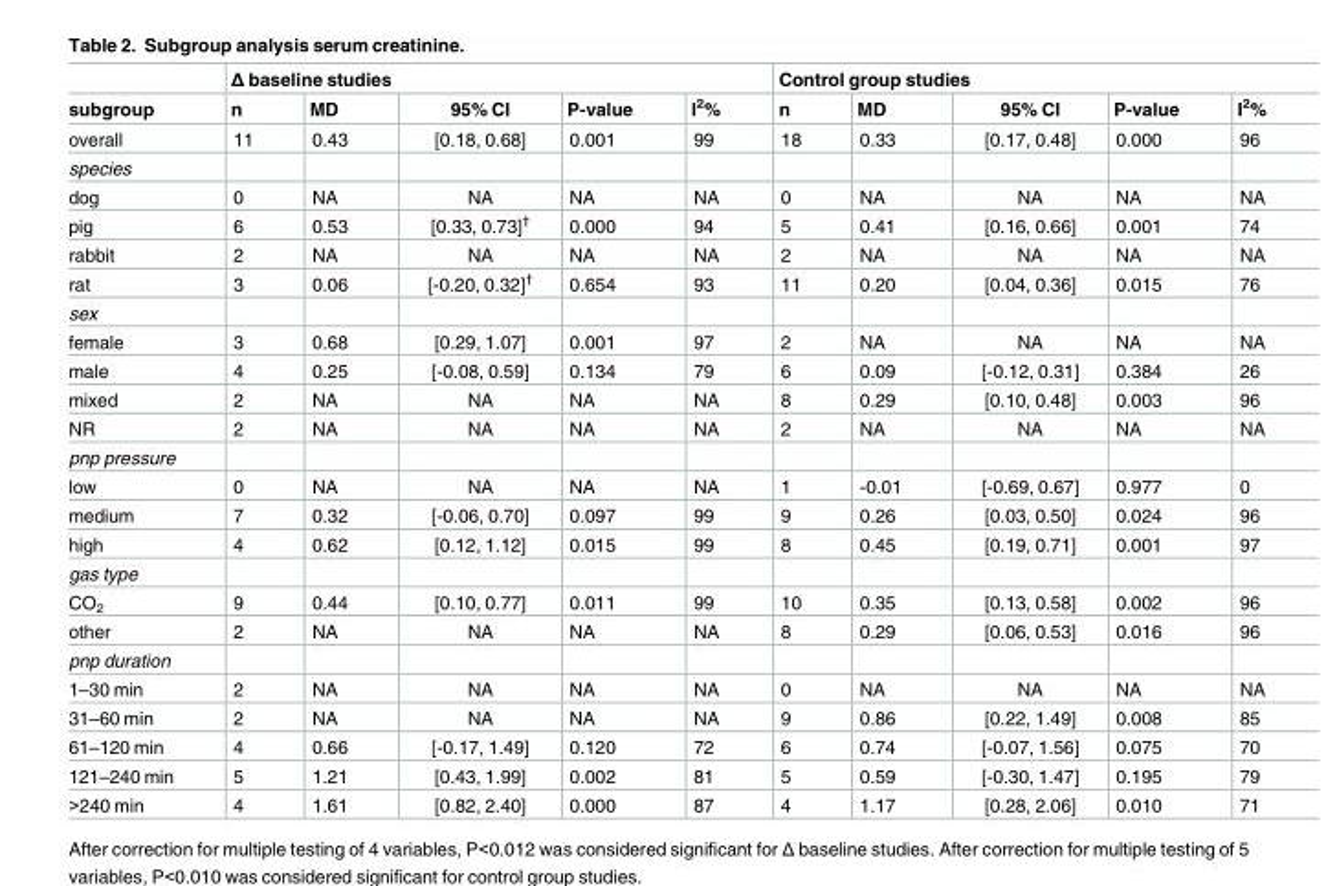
<table><thead><tr><td rowspan="2">subgroup</td><td colspan="5">Δ baseline studies</td><td colspan="5">Control group studies</td></tr><tr><td>n</td><td>MD</td><td>95% CI</td><td>P-value</td><td>I<sup>2</sup>%</td><td>n</td><td>MD</td><td>95% CI</td><td>P-value</td><td>I<sup>2</sup>%</td></tr></thead><tbody><tr><td>overall</td><td>11</td><td>0.43</td><td>[0.18, 0.68]</td><td>0.001</td><td>99</td><td>18</td><td>0.33</td><td>[0.17, 0.48]</td><td>0.000</td><td>96</td></tr><tr><td colspan="11">species</td></tr><tr><td>dog</td><td>0</td><td>NA</td><td>NA</td><td>NA</td><td>NA</td><td>0</td><td>NA</td><td>NA</td><td>NA</td><td>NA</td></tr><tr><td>pig</td><td>6</td><td>0.53</td><td>[0.33, 0.73]<sup>†</sup></td><td>0.000</td><td>94</td><td>5</td><td>0.41</td><td>[0.16, 0.66]</td><td>0.001</td><td>74</td></tr><tr><td>rabbit</td><td>2</td><td>NA</td><td>NA</td><td>NA</td><td>NA</td><td>2</td><td>NA</td><td>NA</td><td>NA</td><td>NA</td></tr><tr><td>rat</td><td>3</td><td>0.06</td><td>[-0.20, 0.32]<sup>†</sup></td><td>0.654</td><td>93</td><td>11</td><td>0.20</td><td>[0.04, 0.36]</td><td>0.015</td><td>76</td></tr><tr><td colspan="11">sex</td></tr><tr><td>female</td><td>3</td><td>0.68</td><td>[0.29, 1.07]</td><td>0.001</td><td>97</td><td>2</td><td>NA</td><td>NA</td><td>NA</td><td>NA</td></tr><tr><td>male</td><td>4</td><td>0.25</td><td>[-0.08, 0.59]</td><td>0.134</td><td>79</td><td>6</td><td>0.09</td><td>[-0.12, 0.31]</td><td>0.384</td><td>26</td></tr><tr><td>mixed</td><td>2</td><td>NA</td><td>NA</td><td>NA</td><td>NA</td><td>8</td><td>0.29</td><td>[0.10, 0.48]</td><td>0.003</td><td>96</td></tr><tr><td>NR</td><td>2</td><td>NA</td><td>NA</td><td>NA</td><td>NA</td><td>2</td><td>NA</td><td>NA</td><td>NA</td><td>NA</td></tr><tr><td colspan="11">pnp pressure</td></tr><tr><td>low</td><td>0</td><td>NA</td><td>NA</td><td>NA</td><td>NA</td><td>1</td><td>-0.01</td><td>[-0.69, 0.67]</td><td>0.977</td><td>0</td></tr><tr><td>medium</td><td>7</td><td>0.32</td><td>[-0.06, 0.70]</td><td>0.097</td><td>99</td><td>9</td><td>0.26</td><td>[0.03, 0.50]</td><td>0.024</td><td>96</td></tr><tr><td>high</td><td>4</td><td>0.62</td><td>[0.12, 1.12]</td><td>0.015</td><td>99</td><td>8</td><td>0.45</td><td>[0.19, 0.71]</td><td>0.001</td><td>97</td></tr><tr><td colspan="11">gas type</td></tr><tr><td>CO<sub>2</sub></td><td>9</td><td>0.44</td><td>[0.10, 0.77]</td><td>0.011</td><td>99</td><td>10</td><td>0.35</td><td>[0.13, 0.58]</td><td>0.002</td><td>96</td></tr><tr><td>other</td><td>2</td><td>NA</td><td>NA</td><td>NA</td><td>NA</td><td>8</td><td>0.29</td><td>[0.06, 0.53]</td><td>0.016</td><td>96</td></tr><tr><td colspan="11">pnp duration</td></tr><tr><td>1–30 min</td><td>2</td><td>NA</td><td>NA</td><td>NA</td><td>NA</td><td>0</td><td>NA</td><td>NA</td><td>NA</td><td>NA</td></tr><tr><td>31–60 min</td><td>2</td><td>NA</td><td>NA</td><td>NA</td><td>NA</td><td>9</td><td>0.86</td><td>[0.22, 1.49]</td><td>0.008</td><td>85</td></tr><tr><td>61–120 min</td><td>4</td><td>0.66</td><td>[-0.17, 1.49]</td><td>0.120</td><td>72</td><td>6</td><td>0.74</td><td>[-0.07, 1.56]</td><td>0.075</td><td>70</td></tr><tr><td>121–240 min</td><td>5</td><td>1.21</td><td>[0.43, 1.99]</td><td>0.002</td><td>81</td><td>5</td><td>0.59</td><td>[-0.30, 1.47]</td><td>0.195</td><td>79</td></tr><tr><td>&gt;240 min</td><td>4</td><td>1.61</td><td>[0.82, 2.40]</td><td>0.000</td><td>87</td><td>4</td><td>1.17</td><td>[0.28, 2.06]</td><td>0.010</td><td>71</td></tr></tbody></table>